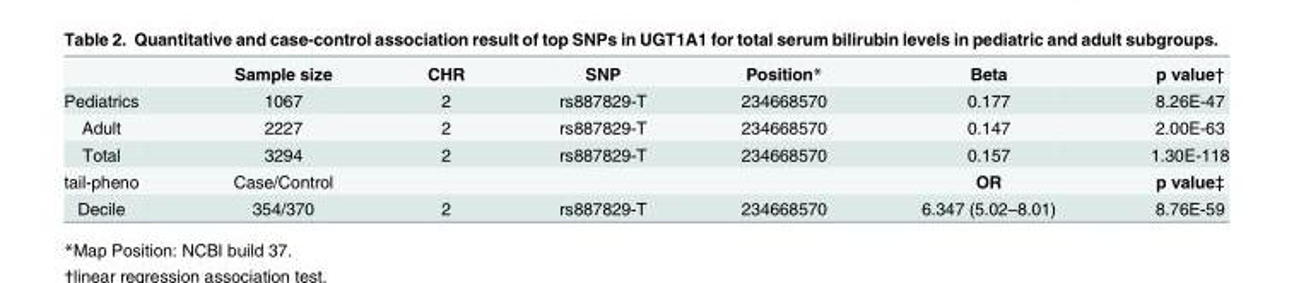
<table><thead><tr><td></td><td>Sample size</td><td>CHR</td><td>SNP</td><td>Position*</td><td>Beta</td><td>p value†</td></tr></thead><tbody><tr><td>Pediatrics</td><td>1067</td><td>2</td><td>rs887829-T</td><td>234668570</td><td>0.177</td><td>8.26E-47</td></tr><tr><td>Adult</td><td>2227</td><td>2</td><td>rs887829-T</td><td>234668570</td><td>0.147</td><td>2.00E-63</td></tr><tr><td>Total</td><td>3294</td><td>2</td><td>rs887829-T</td><td>234668570</td><td>0.157</td><td>1.30E-118</td></tr><tr><td>tail-pheno</td><td>Case/Control</td><td colspan="3"></td><td>OR</td><td>p value‡</td></tr><tr><td>Decile</td><td>354/370</td><td>2</td><td>rs887829-T</td><td>234668570</td><td>6.347 (5.02–8.01)</td><td>8.76E-59</td></tr></tbody></table>